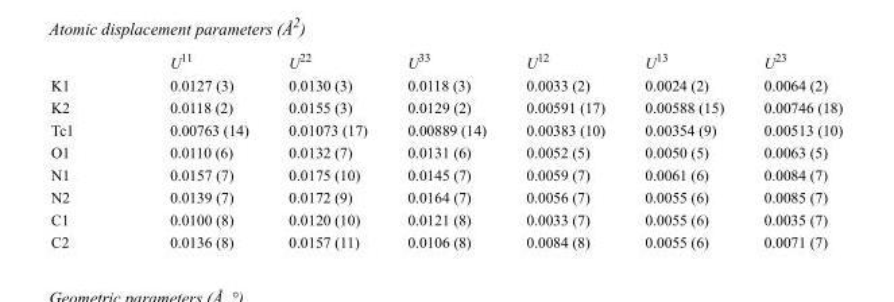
<table><thead><tr><td></td><td>U<sup>11</sup></td><td>U<sup>22</sup></td><td>U<sup>33</sup></td><td>U<sup>12</sup></td><td>U<sup>13</sup></td><td>U<sup>23</sup></td></tr></thead><tbody><tr><td>K1</td><td>0.0127 (3)</td><td>0.0130 (3)</td><td>0.0118 (3)</td><td>0.0033 (2)</td><td>0.0024 (2)</td><td>0.0064 (2)</td></tr><tr><td>K2</td><td>0.0118 (2)</td><td>0.0155 (3)</td><td>0.0129 (2)</td><td>0.00591 (17)</td><td>0.00588 (15)</td><td>0.00746 (18)</td></tr><tr><td>Tc1</td><td>0.00763 (14)</td><td>0.01073 (17)</td><td>0.00889 (14)</td><td>0.00383 (10)</td><td>0.00354 (9)</td><td>0.00513 (10)</td></tr><tr><td>O1</td><td>0.0110 (6)</td><td>0.0132 (7)</td><td>0.0131 (6)</td><td>0.0052 (5)</td><td>0.0050 (5)</td><td>0.0063 (5)</td></tr><tr><td>N1</td><td>0.0157 (7)</td><td>0.0175 (10)</td><td>0.0145 (7)</td><td>0.0059 (7)</td><td>0.0061 (6)</td><td>0.0084 (7)</td></tr><tr><td>N2</td><td>0.0139 (7)</td><td>0.0172 (9)</td><td>0.0164 (7)</td><td>0.0056 (7)</td><td>0.0055 (6)</td><td>0.0085 (7)</td></tr><tr><td>C1</td><td>0.0100 (8)</td><td>0.0120 (10)</td><td>0.0121 (8)</td><td>0.0033 (7)</td><td>0.0055 (6)</td><td>0.0035 (7)</td></tr><tr><td>C2</td><td>0.0136 (8)</td><td>0.0157 (11)</td><td>0.0106 (8)</td><td>0.0084 (8)</td><td>0.0055 (6)</td><td>0.0071 (7)</td></tr></tbody></table>